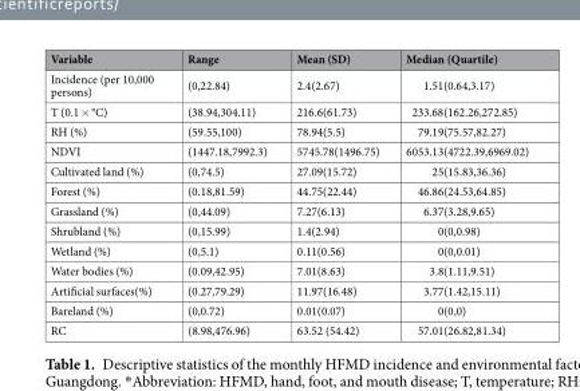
<table><thead><tr><td>Variable</td><td>Range</td><td>Mean (SD)</td><td>Median (Quartile)</td></tr></thead><tbody><tr><td>Incidence (per 10,000 persons)</td><td>(0,22.84)</td><td>2.4(2.67)</td><td>1.51(0.64,3.17)</td></tr><tr><td>T (0.1 × °C)</td><td>(38.94,304.11)</td><td>216.6(61.73)</td><td>233.68(162.26,272.85)</td></tr><tr><td>RH (%)</td><td>(59.55,100)</td><td>78.94(5.5)</td><td>79.19(75.57,82.27)</td></tr><tr><td>NDVI</td><td>(1447.18,7992.3)</td><td>5745.78(1496.75)</td><td>6053.13(4722.39,6969.02)</td></tr><tr><td>Cultivated land (%)</td><td>(0,74.5)</td><td>27.09(15.72)</td><td>25(15.83,36.36)</td></tr><tr><td>Forest (%)</td><td>(0.18,81.59)</td><td>44.75(22.44)</td><td>46.86(24.53,64.85)</td></tr><tr><td>Grassland (%)</td><td>(0,44.09)</td><td>7.27(6.13)</td><td>6.37(3.28,9.65)</td></tr><tr><td>Shrubland (%)</td><td>(0,15.99)</td><td>1.4(2.94)</td><td>0(0,0.98)</td></tr><tr><td>Wetland (%)</td><td>(0,5.1)</td><td>0.11(0.56)</td><td>0(0,0.01)</td></tr><tr><td>Water bodies (%)</td><td>(0.09,42.95)</td><td>7.01(8.63)</td><td>3.8(1.11,9.51)</td></tr><tr><td>Artificial surfaces(%)</td><td>(0.27,79.29)</td><td>11.97(16.48)</td><td>3.77(1.42,15.11)</td></tr><tr><td>Bareland (%)</td><td>(0,0.72)</td><td>0.01(0.07)</td><td>0(0,0)</td></tr><tr><td>RC</td><td>(8.98,476.96)</td><td>63.52 (54.42)</td><td>57.01(26.82,81.34)</td></tr></tbody></table>